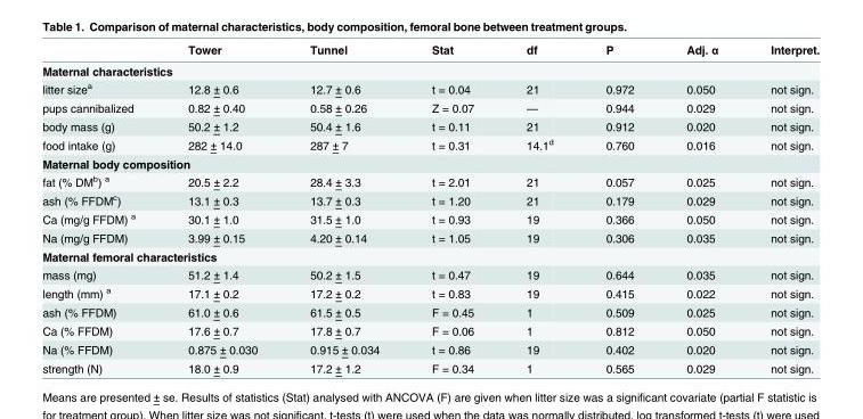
<table><thead><tr><td></td><td>Tower</td><td>Tunnel</td><td>Stat</td><td>df</td><td>P</td><td>Adj. α</td><td>Interpret.</td></tr></thead><tbody><tr><td colspan="8">Maternal characteristics</td></tr><tr><td>litter size<sup>a</sup></td><td>12.8 ± 0.6</td><td>12.7 ± 0.6</td><td>t = 0.04</td><td>21</td><td>0.972</td><td>0.050</td><td>not sign.</td></tr><tr><td>pups cannibalized</td><td>0.82 ± 0.40</td><td>0.58 ± 0.26</td><td>Z = 0.07</td><td>—</td><td>0.944</td><td>0.029</td><td>not sign.</td></tr><tr><td>body mass (g)</td><td>50.2 ± 1.2</td><td>50.4 ± 1.6</td><td>t = 0.11</td><td>21</td><td>0.912</td><td>0.020</td><td>not sign.</td></tr><tr><td>food intake (g)</td><td>282 ± 14.0</td><td>287 ± 7</td><td>t = 0.31</td><td>14.1<sup>d</sup></td><td>0.760</td><td>0.016</td><td>not sign.</td></tr><tr><td colspan="8">Maternal body composition</td></tr><tr><td>fat (% DM<sup>b</sup>) <sup>a</sup></td><td>20.5 ± 2.2</td><td>28.4 ± 3.3</td><td>t = 2.01</td><td>21</td><td>0.057</td><td>0.025</td><td>not sign.</td></tr><tr><td>ash (% FFDM<sup>c</sup>)</td><td>13.1 ± 0.3</td><td>13.7 ± 0.3</td><td>t = 1.20</td><td>21</td><td>0.179</td><td>0.029</td><td>not sign.</td></tr><tr><td>Ca (mg/g FFDM) <sup>a</sup></td><td>30.1 ± 1.0</td><td>31.5 ± 1.0</td><td>t = 0.93</td><td>19</td><td>0.366</td><td>0.050</td><td>not sign.</td></tr><tr><td>Na (mg/g FFDM)</td><td>3.99 ± 0.15</td><td>4.20 ± 0.14</td><td>t = 1.05</td><td>19</td><td>0.306</td><td>0.035</td><td>not sign.</td></tr><tr><td colspan="8">Maternal femoral characteristics</td></tr><tr><td>mass (mg)</td><td>51.2 ± 1.4</td><td>50.2 ± 1.5</td><td>t = 0.47</td><td>19</td><td>0.644</td><td>0.035</td><td>not sign.</td></tr><tr><td>length (mm) <sup>a</sup></td><td>17.1 ± 0.2</td><td>17.2 ± 0.2</td><td>t = 0.83</td><td>19</td><td>0.415</td><td>0.022</td><td>not sign.</td></tr><tr><td>ash (% FFDM)</td><td>61.0 ± 0.6</td><td>61.5 ± 0.5</td><td>F = 0.45</td><td>1</td><td>0.509</td><td>0.025</td><td>not sign.</td></tr><tr><td>Ca (% FFDM)</td><td>17.6 ± 0.7</td><td>17.8 ± 0.7</td><td>F = 0.06</td><td>1</td><td>0.812</td><td>0.050</td><td>not sign.</td></tr><tr><td>Na (% FFDM)</td><td>0.875 ± 0.030</td><td>0.915 ± 0.034</td><td>t = 0.86</td><td>19</td><td>0.402</td><td>0.020</td><td>not sign.</td></tr><tr><td>strength (N)</td><td>18.0 ± 0.9</td><td>17.2 ± 1.2</td><td>F = 0.34</td><td>1</td><td>0.565</td><td>0.029</td><td>not sign.</td></tr></tbody></table>